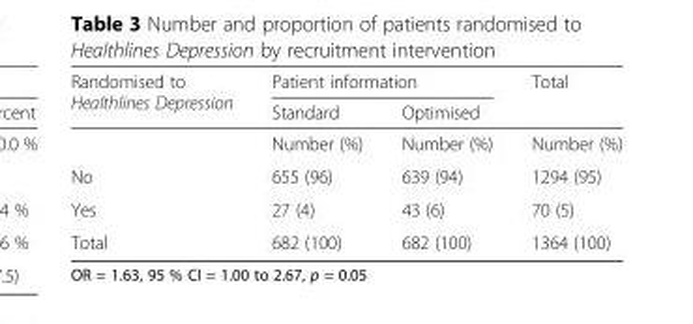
<table><thead><tr><td rowspan="2">Randomised to Healthlines Depression</td><td colspan="2">Patient information</td><td rowspan="2">Total</td></tr><tr><td>Standard</td><td>Optimised</td></tr></thead><tbody><tr><td></td><td>Number (%)</td><td>Number (%)</td><td>Number (%)</td></tr><tr><td>No</td><td>655 (96)</td><td>639 (94)</td><td>1294 (95)</td></tr><tr><td>Yes</td><td>27 (4)</td><td>43 (6)</td><td>70 (5)</td></tr><tr><td>Total</td><td>682 (100)</td><td>682 (100)</td><td>1364 (100)</td></tr></tbody></table>